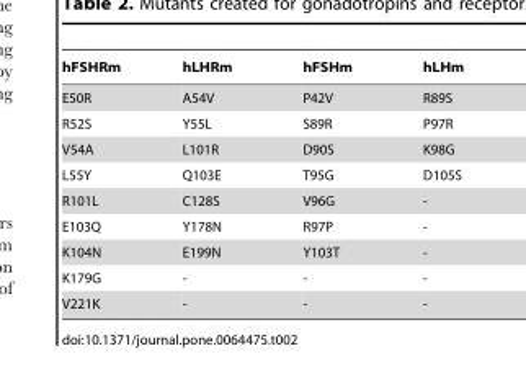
<table><thead><tr><td>hFSHRm</td><td>hLHRm</td><td>hFSHm</td><td>hLHm</td></tr></thead><tbody><tr><td>E50R</td><td>A54V</td><td>P42V</td><td>R89S</td></tr><tr><td>R52S</td><td>Y55L</td><td>S89R</td><td>P97R</td></tr><tr><td>V54A</td><td>L101R</td><td>D90S</td><td>K98G</td></tr><tr><td>L55Y</td><td>Q103E</td><td>T95G</td><td>D105S</td></tr><tr><td>R101L</td><td>C128S</td><td>V96G</td><td>-</td></tr><tr><td>E103Q</td><td>Y178N</td><td>R97P</td><td>-</td></tr><tr><td>K104N</td><td>E199N</td><td>Y103T</td><td>-</td></tr><tr><td>K179G</td><td>-</td><td>-</td><td>-</td></tr><tr><td>V221K</td><td>-</td><td>-</td><td>-</td></tr></tbody></table>